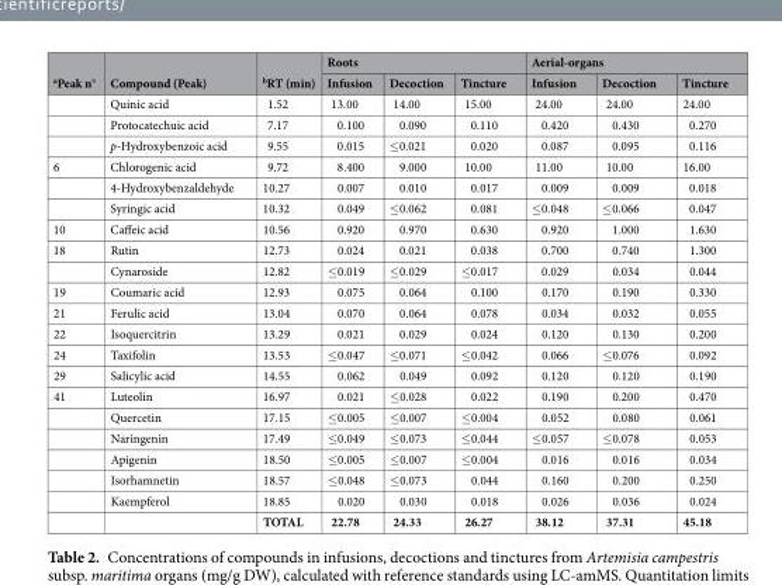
<table><thead><tr><td rowspan="2"><sup>a</sup>Peak n°</td><td rowspan="2">Compound (Peak)</td><td rowspan="2"><sup>b</sup>RT (min)</td><td colspan="3">Roots</td><td colspan="3">Aerial-organs</td></tr><tr><td>Infusion</td><td>Decoction</td><td>Tincture</td><td>Infusion</td><td>Decoction</td><td>Tincture</td></tr></thead><tbody><tr><td></td><td>Quinic acid</td><td>1.52</td><td>13.00</td><td>14.00</td><td>15.00</td><td>24.00</td><td>24.00</td><td>24.00</td></tr><tr><td></td><td>Protocatechuic acid</td><td>7.17</td><td>0.100</td><td>0.090</td><td>0.110</td><td>0.420</td><td>0.430</td><td>0.270</td></tr><tr><td></td><td>p-Hydroxybenzoic acid</td><td>9.55</td><td>0.015</td><td>≤0.021</td><td>0.020</td><td>0.087</td><td>0.095</td><td>0.116</td></tr><tr><td rowspan="3">6</td><td>Chlorogenic acid</td><td>9.72</td><td>8.400</td><td>9.000</td><td>10.00</td><td>11.00</td><td>10.00</td><td>16.00</td></tr><tr><td>4-Hydroxybenzaldehyde</td><td>10.27</td><td>0.007</td><td>0.010</td><td>0.017</td><td>0.009</td><td>0.009</td><td>0.018</td></tr><tr><td>Syringic acid</td><td>10.32</td><td>0.049</td><td>≤0.062</td><td>0.081</td><td>≤0.048</td><td>≤0.066</td><td>0.047</td></tr><tr><td>10</td><td>Caffeic acid</td><td>10.56</td><td>0.920</td><td>0.970</td><td>0.630</td><td>0.920</td><td>1.000</td><td>1.630</td></tr><tr><td rowspan="2">18</td><td>Rutin</td><td>12.73</td><td>0.024</td><td>0.021</td><td>0.038</td><td>0.700</td><td>0.740</td><td>1.300</td></tr><tr><td>Cynaroside</td><td>12.82</td><td>≤0.019</td><td>≤0.029</td><td>≤0.017</td><td>0.029</td><td>0.034</td><td>0.044</td></tr><tr><td>19</td><td>Coumaric acid</td><td>12.93</td><td>0.075</td><td>0.064</td><td>0.100</td><td>0.170</td><td>0.190</td><td>0.330</td></tr><tr><td>21</td><td>Ferulic acid</td><td>13.04</td><td>0.070</td><td>0.064</td><td>0.078</td><td>0.034</td><td>0.032</td><td>0.055</td></tr><tr><td>22</td><td>Isoquercitrin</td><td>13.29</td><td>0.021</td><td>0.029</td><td>0.024</td><td>0.120</td><td>0.130</td><td>0.200</td></tr><tr><td>24</td><td>Taxifolin</td><td>13.53</td><td>≤0.047</td><td>≤0.071</td><td>≤0.042</td><td>0.066</td><td>≤0.076</td><td>0.092</td></tr><tr><td>29</td><td>Salicylic acid</td><td>14.55</td><td>0.062</td><td>0.049</td><td>0.092</td><td>0.120</td><td>0.120</td><td>0.190</td></tr><tr><td rowspan="7">41</td><td>Luteolin</td><td>16.97</td><td>0.021</td><td>≤0.028</td><td>0.022</td><td>0.190</td><td>0.200</td><td>0.470</td></tr><tr><td>Quercetin</td><td>17.15</td><td>≤0.005</td><td>≤0.007</td><td>≤0.004</td><td>0.052</td><td>0.080</td><td>0.061</td></tr><tr><td>Naringenin</td><td>17.49</td><td>≤0.049</td><td>≤0.073</td><td>≤0.044</td><td>≤0.057</td><td>≤0.078</td><td>0.053</td></tr><tr><td>Apigenin</td><td>18.50</td><td>≤0.005</td><td>≤0.007</td><td>≤0.004</td><td>0.016</td><td>0.016</td><td>0.034</td></tr><tr><td>Isorhamnetin</td><td>18.57</td><td>≤0.048</td><td>≤0.073</td><td>0.044</td><td>0.160</td><td>0.200</td><td>0.250</td></tr><tr><td>Kaempferol</td><td>18.85</td><td>0.020</td><td>0.030</td><td>0.018</td><td>0.026</td><td>0.036</td><td>0.024</td></tr><tr><td></td><td>TOTAL</td><td>22.78</td><td>24.33</td><td>26.27</td><td>38.12</td><td>37.31</td><td>45.18</td></tr></tbody></table>